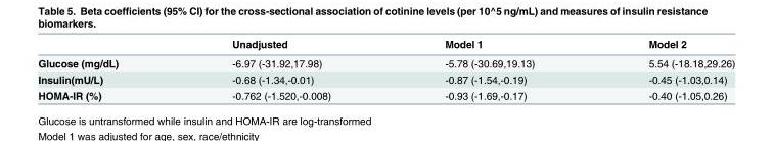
<table><thead><tr><td></td><td>Unadjusted</td><td>Model 1</td><td>Model 2</td></tr></thead><tbody><tr><td>Glucose (mg/dL)</td><td>-6.97 (-31.92,17.98)</td><td>-5.78 (-30.69,19.13)</td><td>5.54 (-18.18,29.26)</td></tr><tr><td>Insulin(mU/L)</td><td>-0.68 (-1.34,-0.01)</td><td>-0.87 (-1.54,-0.19)</td><td>-0.45 (-1.03,0.14)</td></tr><tr><td>HOMA-IR (%)</td><td>-0.762 (-1.520,-0.008)</td><td>-0.93 (-1.69,-0.17)</td><td>-0.40 (-1.05,0.26)</td></tr></tbody></table>